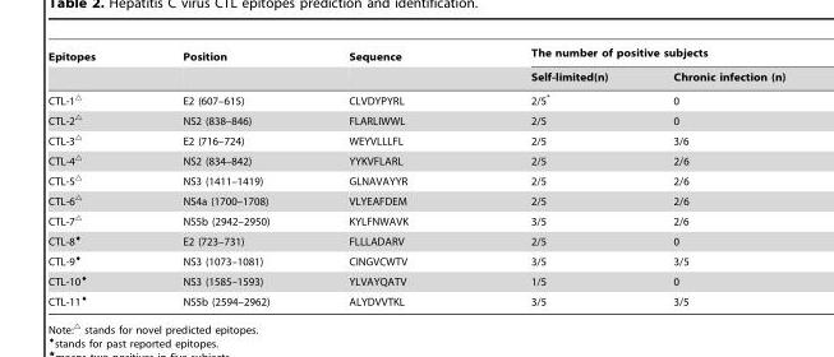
<table><thead><tr><td rowspan="2">Epitopes</td><td rowspan="2">Position</td><td rowspan="2">Sequence</td><td colspan="2">The number of positive subjects</td></tr><tr><td>Self-limited(n)</td><td>Chronic infection (n)</td></tr></thead><tbody><tr><td>CTL-1<sup>△</sup></td><td>E2 (607–615)</td><td>CLVDYPYRL</td><td>2/5*</td><td>0</td></tr><tr><td>CTL-2<sup>△</sup></td><td>NS2 (838–846)</td><td>FLARLIWWL</td><td>2/5</td><td>0</td></tr><tr><td>CTL-3<sup>△</sup></td><td>E2 (716–724)</td><td>WEYVLLLFL</td><td>2/5</td><td>3/6</td></tr><tr><td>CTL-4<sup>△</sup></td><td>NS2 (834–842)</td><td>YYKVFLARL</td><td>2/5</td><td>2/6</td></tr><tr><td>CTL-5<sup>△</sup></td><td>NS3 (1411–1419)</td><td>GLNAVAYYR</td><td>2/5</td><td>2/6</td></tr><tr><td>CTL-6<sup>△</sup></td><td>NS4a (1700–1708)</td><td>VLYEAFDEM</td><td>2/5</td><td>2/6</td></tr><tr><td>CTL-7<sup>△</sup></td><td>NS5b (2942–2950)</td><td>KYLFNWAVK</td><td>3/5</td><td>2/6</td></tr><tr><td>CTL-8¤</td><td>E2 (723–731)</td><td>FLLLADARV</td><td>2/5</td><td>0</td></tr><tr><td>CTL-9¤</td><td>NS3 (1073–1081)</td><td>CINGVCWTV</td><td>3/5</td><td>3/5</td></tr><tr><td>CTL-10¤</td><td>NS3 (1585–1593)</td><td>YLVAYQATV</td><td>1/5</td><td>0</td></tr><tr><td>CTL-11¤</td><td>NS5b (2594–2962)</td><td>ALYDVVTKL</td><td>3/5</td><td>3/5</td></tr></tbody></table>